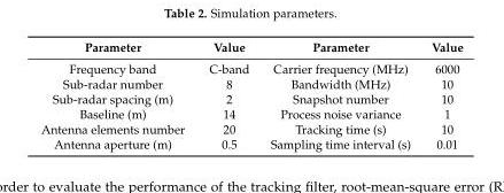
<table><thead><tr><td>Parameter</td><td>Value</td><td>Parameter</td><td>Value</td></tr></thead><tbody><tr><td>Frequency band</td><td>C-band</td><td>Carrier frequency (MHz)</td><td>6000</td></tr><tr><td>Sub-radar number</td><td>8</td><td>Bandwidth (MHz)</td><td>10</td></tr><tr><td>Sub-radar spacing (m)</td><td>2</td><td>Snapshot number</td><td>10</td></tr><tr><td>Baseline (m)</td><td>14</td><td>Process noise variance</td><td>1</td></tr><tr><td>Antenna elements number</td><td>20</td><td>Tracking time (s)</td><td>10</td></tr><tr><td>Antenna aperture (m)</td><td>0.5</td><td>Sampling time interval (s)</td><td>0.01</td></tr></tbody></table>